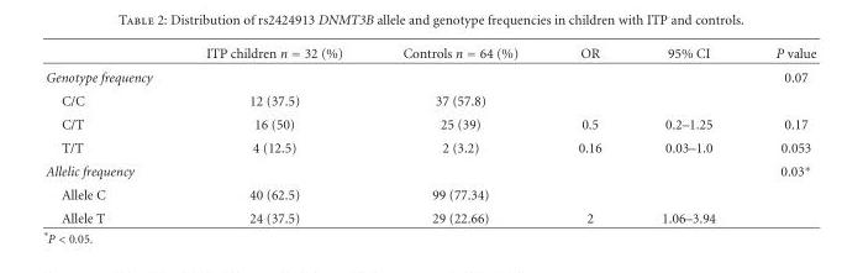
<table><thead><tr><td></td><td>ITP children n = 32 (%)</td><td>Controls n = 64 (%)</td><td>OR</td><td>95% CI</td><td>P value</td></tr></thead><tbody><tr><td>Genotype frequency</td><td></td><td></td><td></td><td></td><td>0.07</td></tr><tr><td>C/C</td><td>12 (37.5)</td><td>37 (57.8)</td><td></td><td></td><td></td></tr><tr><td>C/T</td><td>16 (50)</td><td>25 (39)</td><td>0.5</td><td>0.2–1.25</td><td>0.17</td></tr><tr><td>T/T</td><td>4 (12.5)</td><td>2 (3.2)</td><td>0.16</td><td>0.03–1.0</td><td>0.053</td></tr><tr><td>Allelic frequency</td><td></td><td></td><td></td><td></td><td>0.03∗</td></tr><tr><td>Allele C</td><td>40 (62.5)</td><td>99 (77.34)</td><td></td><td></td><td></td></tr><tr><td>Allele T</td><td>24 (37.5)</td><td>29 (22.66)</td><td>2</td><td>1.06–3.94</td><td></td></tr></tbody></table>